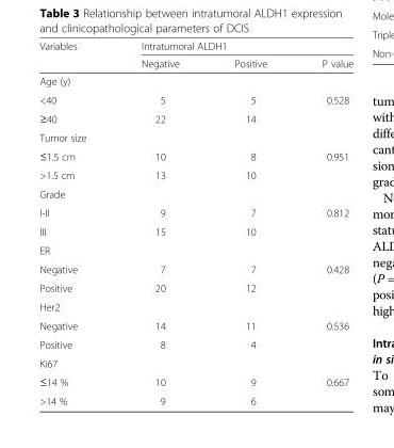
<table><thead><tr><td rowspan="2">Variables</td><td colspan="3">Intratumoral ALDH1</td></tr><tr><td>Negative</td><td>Positive</td><td>P value</td></tr></thead><tbody><tr><td colspan="4">Age (y)</td></tr><tr><td>&lt;40</td><td>5</td><td>5</td><td>0.528</td></tr><tr><td>≥40</td><td>22</td><td>14</td><td></td></tr><tr><td colspan="4">Tumor size</td></tr><tr><td>≤1.5 cm</td><td>10</td><td>8</td><td>0.951</td></tr><tr><td>&gt;1.5 cm</td><td>13</td><td>10</td><td></td></tr><tr><td colspan="4">Grade</td></tr><tr><td>I-II</td><td>9</td><td>7</td><td>0.812</td></tr><tr><td>III</td><td>15</td><td>10</td><td></td></tr><tr><td colspan="4">ER</td></tr><tr><td>Negative</td><td>7</td><td>7</td><td>0.428</td></tr><tr><td>Positive</td><td>20</td><td>12</td><td></td></tr><tr><td colspan="4">Her2</td></tr><tr><td>Negative</td><td>14</td><td>11</td><td>0.536</td></tr><tr><td>Positive</td><td>8</td><td>4</td><td></td></tr><tr><td colspan="4">Ki67</td></tr><tr><td>≤14 %</td><td>10</td><td>9</td><td>0.667</td></tr><tr><td>&gt;14 %</td><td>9</td><td>6</td><td></td></tr></tbody></table>